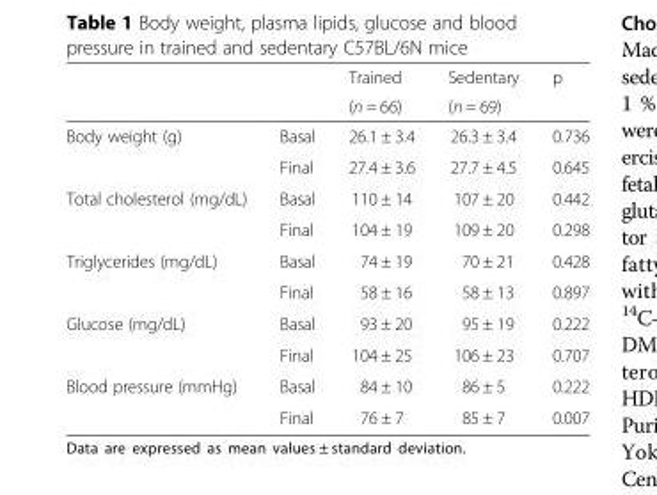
<table><thead><tr><td rowspan="2"></td><td rowspan="2"></td><td rowspan="2">Trained (n = 66)</td><td rowspan="2">Sedentary (n = 69)</td><td rowspan="2">p</td></tr><tr></tr></thead><tbody><tr><td rowspan="2">Body weight (g)</td><td>Basal</td><td>26.1 ± 3.4</td><td>26.3 ± 3.4</td><td>0.736</td></tr><tr><td>Final</td><td>27.4 ± 3.6</td><td>27.7 ± 4.5</td><td>0.645</td></tr><tr><td rowspan="2">Total cholesterol (mg/dL)</td><td>Basal</td><td>110 ± 14</td><td>107 ± 20</td><td>0.442</td></tr><tr><td>Final</td><td>104 ± 19</td><td>109 ± 20</td><td>0.298</td></tr><tr><td rowspan="2">Triglycerides (mg/dL)</td><td>Basal</td><td>74 ± 19</td><td>70 ± 21</td><td>0.428</td></tr><tr><td>Final</td><td>58 ± 16</td><td>58 ± 13</td><td>0.897</td></tr><tr><td rowspan="2">Glucose (mg/dL)</td><td>Basal</td><td>93 ± 20</td><td>95 ± 19</td><td>0.222</td></tr><tr><td>Final</td><td>104 ± 25</td><td>106 ± 23</td><td>0.707</td></tr><tr><td rowspan="2">Blood pressure (mmHg)</td><td>Basal</td><td>84 ± 10</td><td>86 ± 5</td><td>0.222</td></tr><tr><td>Final</td><td>76 ± 7</td><td>85 ± 7</td><td>0.007</td></tr></tbody></table>